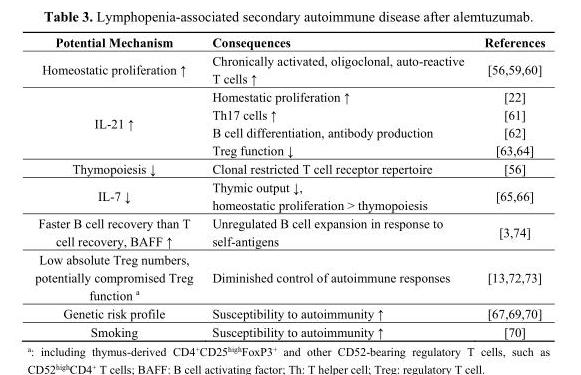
<table><thead><tr><td>Potential Mechanism</td><td>Consequences</td><td>References</td></tr></thead><tbody><tr><td>Homeostatic proliferation ↑</td><td>Chronically activated, oligoclonal, auto-reactive T cells ↑</td><td>[56,59,60]</td></tr><tr><td rowspan="4">IL-21 ↑</td><td>Homestatic proliferation ↑</td><td>[22]</td></tr><tr><td>Th17 cells ↑</td><td>[61]</td></tr><tr><td>B cell differentiation, antibody production</td><td>[62]</td></tr><tr><td>Treg function ↓</td><td>[63,64]</td></tr><tr><td>Thymopoiesis ↓</td><td>Clonal restricted T cell receptor repertoire</td><td>[56]</td></tr><tr><td>IL-7 ↓</td><td>Thymic output ↓, homeostatic proliferation &gt; thymopoiesis</td><td>[65,66]</td></tr><tr><td>Faster B cell recovery than T cell recovery, BAFF ↑</td><td>Unregulated B cell expansion in response to self-antigens</td><td>[3,74]</td></tr><tr><td>Low absolute Treg numbers, potentially compromised Treg function <sup>a</sup></td><td>Diminished control of autoimmune responses</td><td>[13,72,73]</td></tr><tr><td>Genetic risk profile</td><td>Susceptibility to autoimmunity ↑</td><td>[67,69,70]</td></tr><tr><td>Smoking</td><td>Susceptibility to autoimmunity ↑</td><td>[70]</td></tr></tbody></table>